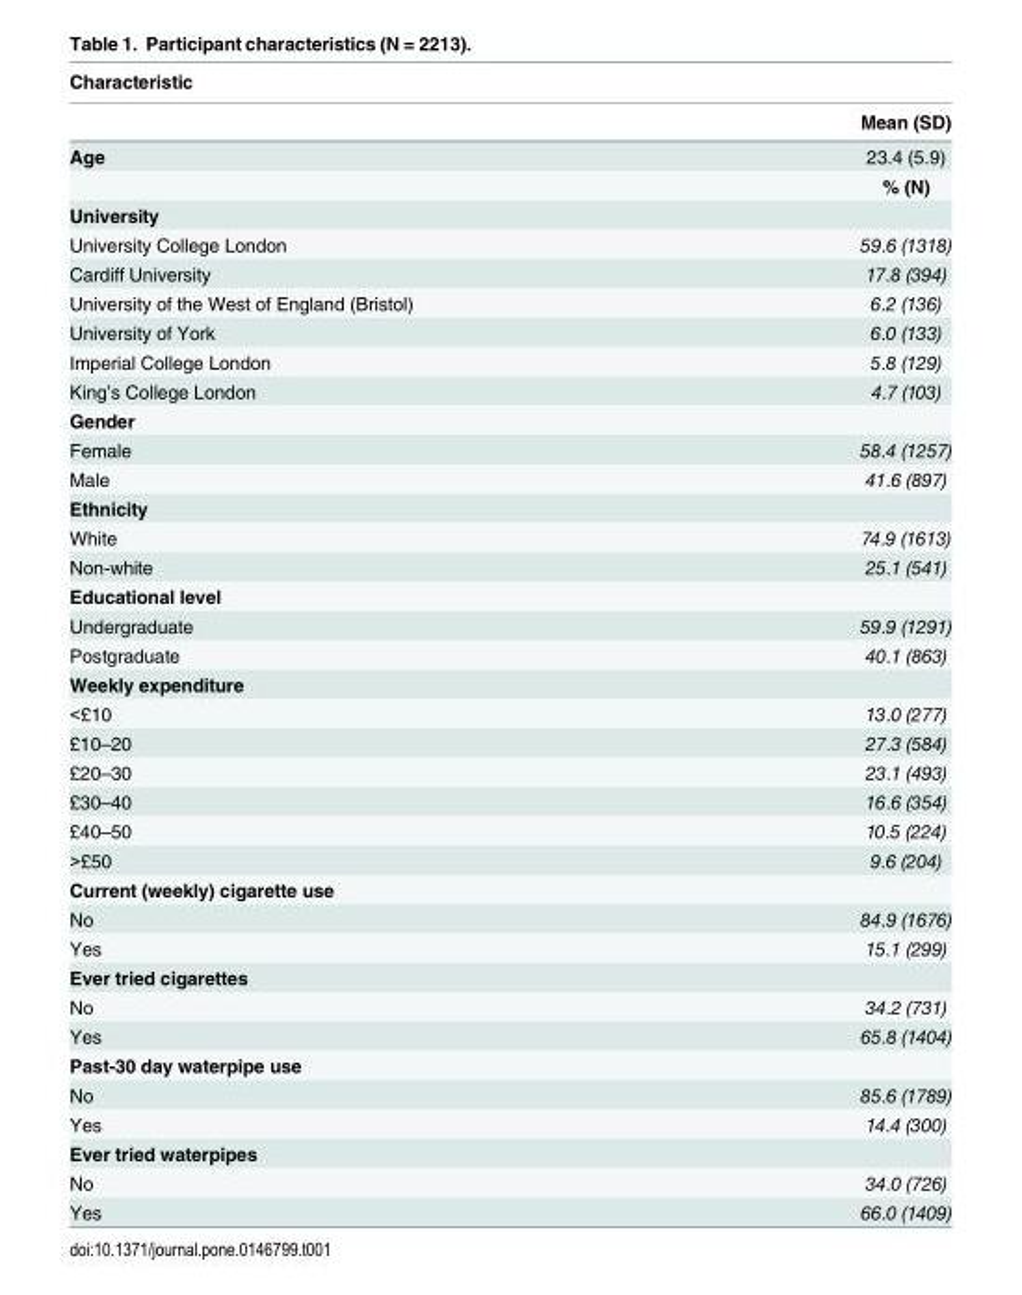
<table><thead><tr><td colspan="2">Characteristic</td></tr><tr><td></td><td>Mean (SD)</td></tr></thead><tbody><tr><td rowspan="2">Age</td><td>23.4 (5.9)</td></tr><tr><td>% (N)</td></tr><tr><td colspan="2">University</td></tr><tr><td>University College London</td><td>59.6 (1318)</td></tr><tr><td>Cardiff University</td><td>17.8 (394)</td></tr><tr><td>University of the West of England (Bristol)</td><td>6.2 (136)</td></tr><tr><td>University of York</td><td>6.0 (133)</td></tr><tr><td>Imperial College London</td><td>5.8 (129)</td></tr><tr><td>King’s College London</td><td>4.7 (103)</td></tr><tr><td colspan="2">Gender</td></tr><tr><td>Female</td><td>58.4 (1257)</td></tr><tr><td>Male</td><td>41.6 (897)</td></tr><tr><td colspan="2">Ethnicity</td></tr><tr><td>White</td><td>74.9 (1613)</td></tr><tr><td>Non-white</td><td>25.1 (541)</td></tr><tr><td colspan="2">Educational level</td></tr><tr><td>Undergraduate</td><td>59.9 (1291)</td></tr><tr><td>Postgraduate</td><td>40.1 (863)</td></tr><tr><td colspan="2">Weekly expenditure</td></tr><tr><td>&lt;£10</td><td>13.0 (277)</td></tr><tr><td>£10–20</td><td>27.3 (584)</td></tr><tr><td>£20–30</td><td>23.1 (493)</td></tr><tr><td>£30–40</td><td>16.6 (354)</td></tr><tr><td>£40–50</td><td>10.5 (224)</td></tr><tr><td>&gt;£50</td><td>9.6 (204)</td></tr><tr><td colspan="2">Current (weekly) cigarette use</td></tr><tr><td>No</td><td>84.9 (1676)</td></tr><tr><td>Yes</td><td>15.1 (299)</td></tr><tr><td colspan="2">Ever tried cigarettes</td></tr><tr><td>No</td><td>34.2 (731)</td></tr><tr><td>Yes</td><td>65.8 (1404)</td></tr><tr><td colspan="2">Past-30 day waterpipe use</td></tr><tr><td>No</td><td>85.6 (1789)</td></tr><tr><td>Yes</td><td>14.4 (300)</td></tr><tr><td colspan="2">Ever tried waterpipes</td></tr><tr><td>No</td><td>34.0 (726)</td></tr><tr><td>Yes</td><td>66.0 (1409)</td></tr></tbody></table>